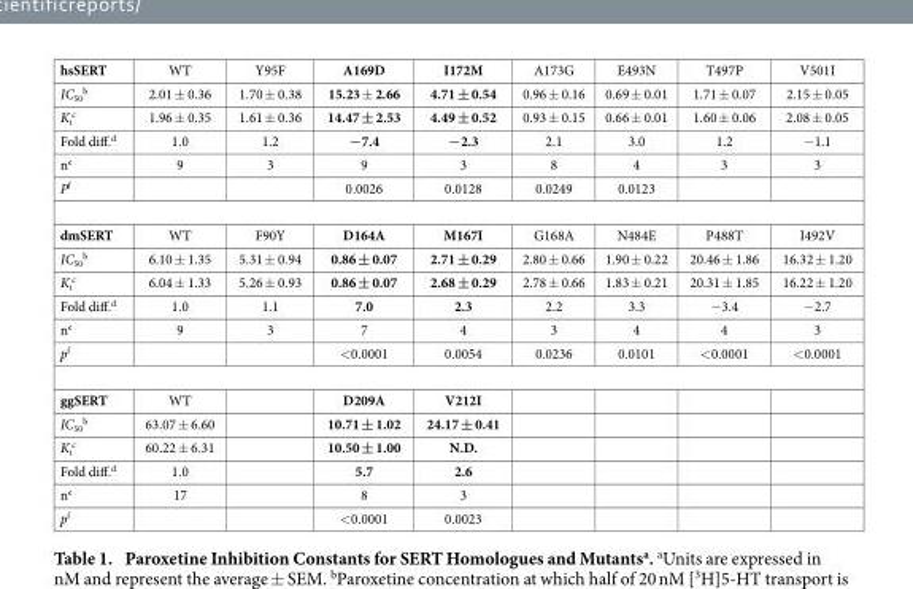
<table><tbody><tr><td>hsSERT</td><td>WT</td><td>Y95F</td><td>A169D</td><td>I172M</td><td>A173G</td><td>E493N</td><td>T497P</td><td>V501I</td></tr><tr><td>IC<sub>50</sub> <sup>b</sup></td><td>2.01 ± 0.36</td><td>1.70 ± 0.38</td><td>15.23 ± 2.66</td><td>4.71 ± 0.54</td><td>0.96 ± 0.16</td><td>0.69 ± 0.01</td><td>1.71 ± 0.07</td><td>2.15 ± 0.05</td></tr><tr><td>K<sub>i</sub> <sup>c</sup></td><td>1.96 ± 0.35</td><td>1.61 ± 0.36</td><td>14.47 ± 2.53</td><td>4.49 ± 0.52</td><td>0.93 ± 0.15</td><td>0.66 ± 0.01</td><td>1.60 ± 0.06</td><td>2.08 ± 0.05</td></tr><tr><td>Fold diff.<sup>d</sup></td><td>1.0</td><td>1.2</td><td>−7.4</td><td>−2.3</td><td>2.1</td><td>3.0</td><td>1.2</td><td>−1.1</td></tr><tr><td>n<sup>e</sup></td><td>9</td><td>3</td><td>9</td><td>3</td><td>8</td><td>4</td><td>3</td><td>3</td></tr><tr><td>P<sup>f</sup></td><td></td><td></td><td>0.0026</td><td>0.0128</td><td>0.0249</td><td>0.0123</td><td></td><td></td></tr><tr><td>dmSERT</td><td>WT</td><td>F90Y</td><td>D164A</td><td>M167I</td><td>G168A</td><td>N484E</td><td>P488T</td><td>I492V</td></tr><tr><td>IC<sub>50</sub> <sup>b</sup></td><td>6.10 ± 1.35</td><td>5.31 ± 0.94</td><td>0.86 ± 0.07</td><td>2.71 ± 0.29</td><td>2.80 ± 0.66</td><td>1.90 ± 0.22</td><td>20.46 ± 1.86</td><td>16.32 ± 1.20</td></tr><tr><td>K<sub>i</sub> <sup>c</sup></td><td>6.04 ± 1.33</td><td>5.26 ± 0.93</td><td>0.86 ± 0.07</td><td>2.68 ± 0.29</td><td>2.78 ± 0.66</td><td>1.83 ± 0.21</td><td>20.31 ± 1.85</td><td>16.22 ± 1.20</td></tr><tr><td>Fold diff.<sup>d</sup></td><td>1.0</td><td>1.1</td><td>7.0</td><td>2.3</td><td>2.2</td><td>3.3</td><td>−3.4</td><td>−2.7</td></tr><tr><td>n<sup>e</sup></td><td>9</td><td>3</td><td>7</td><td>4</td><td>3</td><td>4</td><td>4</td><td>3</td></tr><tr><td>p<sup>f</sup></td><td></td><td></td><td>&lt;0.0001</td><td>0.0054</td><td>0.0236</td><td>0.0101</td><td>&lt;0.0001</td><td>&lt;0.0001</td></tr><tr><td>ggSERT</td><td>WT</td><td></td><td>D209A</td><td>V212I</td><td></td><td></td><td></td><td></td></tr><tr><td>IC<sub>50</sub> <sup>b</sup></td><td>63.07 ± 6.60</td><td></td><td>10.71 ± 1.02</td><td>24.17 ± 0.41</td><td></td><td></td><td></td><td></td></tr><tr><td>K<sub>i</sub> <sup>c</sup></td><td>60.22 ± 6.31</td><td></td><td>10.50 ± 1.00</td><td>N.D.</td><td></td><td></td><td></td><td></td></tr><tr><td>Fold diff.<sup>d</sup></td><td>1.0</td><td></td><td>5.7</td><td>2.6</td><td></td><td></td><td></td><td></td></tr><tr><td>n<sup>e</sup></td><td>17</td><td></td><td>8</td><td>3</td><td></td><td></td><td></td><td></td></tr><tr><td>p<sup>f</sup></td><td></td><td></td><td>&lt;0.0001</td><td>0.0023</td><td></td><td></td><td></td><td></td></tr></tbody></table>